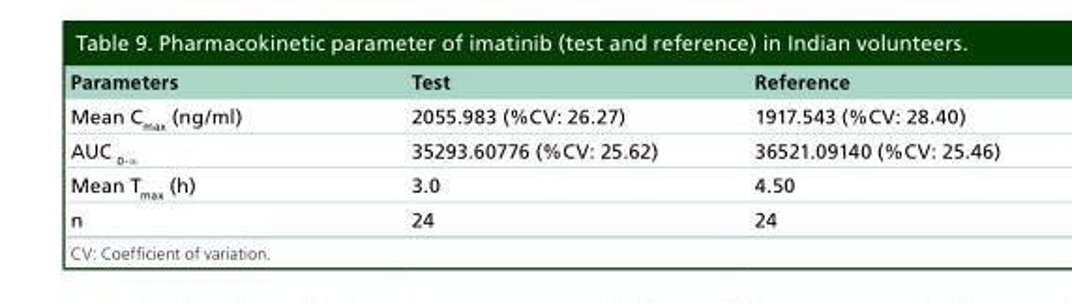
<table><thead><tr><td>Parameters</td><td>Test</td><td>Reference</td></tr></thead><tbody><tr><td>Mean C<sub>max</sub> (ng/ml)</td><td>2055.983 (%CV: 26.27)</td><td>1917.543 (%CV: 28.40)</td></tr><tr><td>AUC <sub>0-∞</sub></td><td>35293.60776 (%CV: 25.62)</td><td>36521.09140 (%CV: 25.46)</td></tr><tr><td>Mean T<sub>max</sub> (h)</td><td>3.0</td><td>4.50</td></tr><tr><td>n</td><td>24</td><td>24</td></tr></tbody></table>